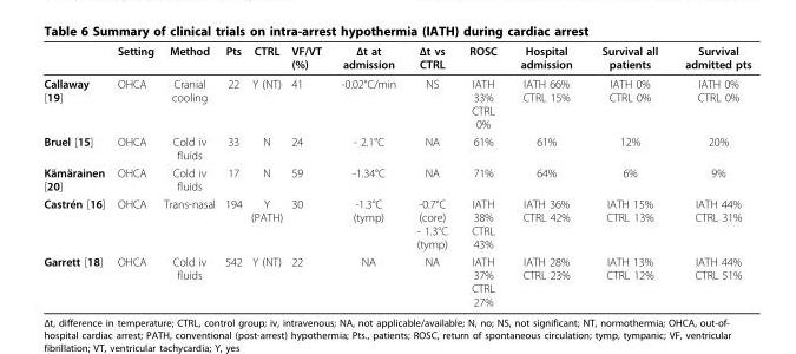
<table><thead><tr><td></td><td>Setting</td><td>Method</td><td>Pts</td><td>CTRL</td><td>VF/VT (%)</td><td>Δt at admission</td><td>Δt vs CTRL</td><td>ROSC</td><td>Hospital admission</td><td>Survival all patients</td><td>Survival admitted pts</td></tr></thead><tbody><tr><td>Callaway [19]</td><td>OHCA</td><td>Cranial cooling</td><td>22</td><td>Y (NT)</td><td>41</td><td>-0.02°C/min</td><td>NS</td><td>IATH 33% CTRL 0%</td><td>IATH 66% CTRL 15%</td><td>IATH 0% CTRL 0%</td><td>IATH 0% CTRL 0%</td></tr><tr><td>Bruel [15]</td><td>OHCA</td><td>Cold iv fluids</td><td>33</td><td>N</td><td>24</td><td>- 2.1°C</td><td>NA</td><td>61%</td><td>61%</td><td>12%</td><td>20%</td></tr><tr><td>Kämärainen [20]</td><td>OHCA</td><td>Cold iv fluids</td><td>17</td><td>N</td><td>59</td><td>-1.34°C</td><td>NA</td><td>71%</td><td>64%</td><td>6%</td><td>9%</td></tr><tr><td>Castrén [16]</td><td>OHCA</td><td>Trans-nasal</td><td>194</td><td>Y (PATH)</td><td>30</td><td>-1.3°C (tymp)</td><td>-0.7°C (core) - 1.3°C (tymp)</td><td>IATH 38% CTRL 43%</td><td>IATH 36% CTRL 42%</td><td>IATH 15% CTRL 13%</td><td>IATH 44% CTRL 31%</td></tr><tr><td>Garrett [18]</td><td>OHCA</td><td>Cold iv fluids</td><td>542</td><td>Y (NT)</td><td>22</td><td>NA</td><td>NA</td><td>IATH 37% CTRL 27%</td><td>IATH 28% CTRL 23%</td><td>IATH 13% CTRL 12%</td><td>IATH 44% CTRL 51%</td></tr></tbody></table>